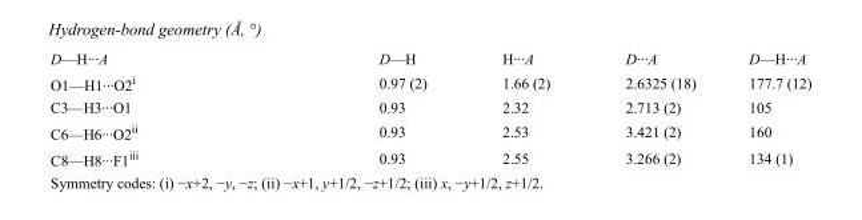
<table><tbody><tr><td>D—H···A</td><td>D—H</td><td>H···A</td><td>D···A</td><td>D—H···A</td></tr><tr><td>O1—H1···O2<sup>i</sup></td><td>0.97 (2)</td><td>1.66 (2)</td><td>2.6325 (18)</td><td>177.7 (12)</td></tr><tr><td>C3—H3···O1</td><td>0.93</td><td>2.32</td><td>2.713 (2)</td><td>105</td></tr><tr><td>C6—H6···O2<sup>ii</sup></td><td>0.93</td><td>2.53</td><td>3.421 (2)</td><td>160</td></tr><tr><td>C8—H8···F1<sup>iii</sup></td><td>0.93</td><td>2.55</td><td>3.266 (2)</td><td>134 (1)</td></tr></tbody></table>